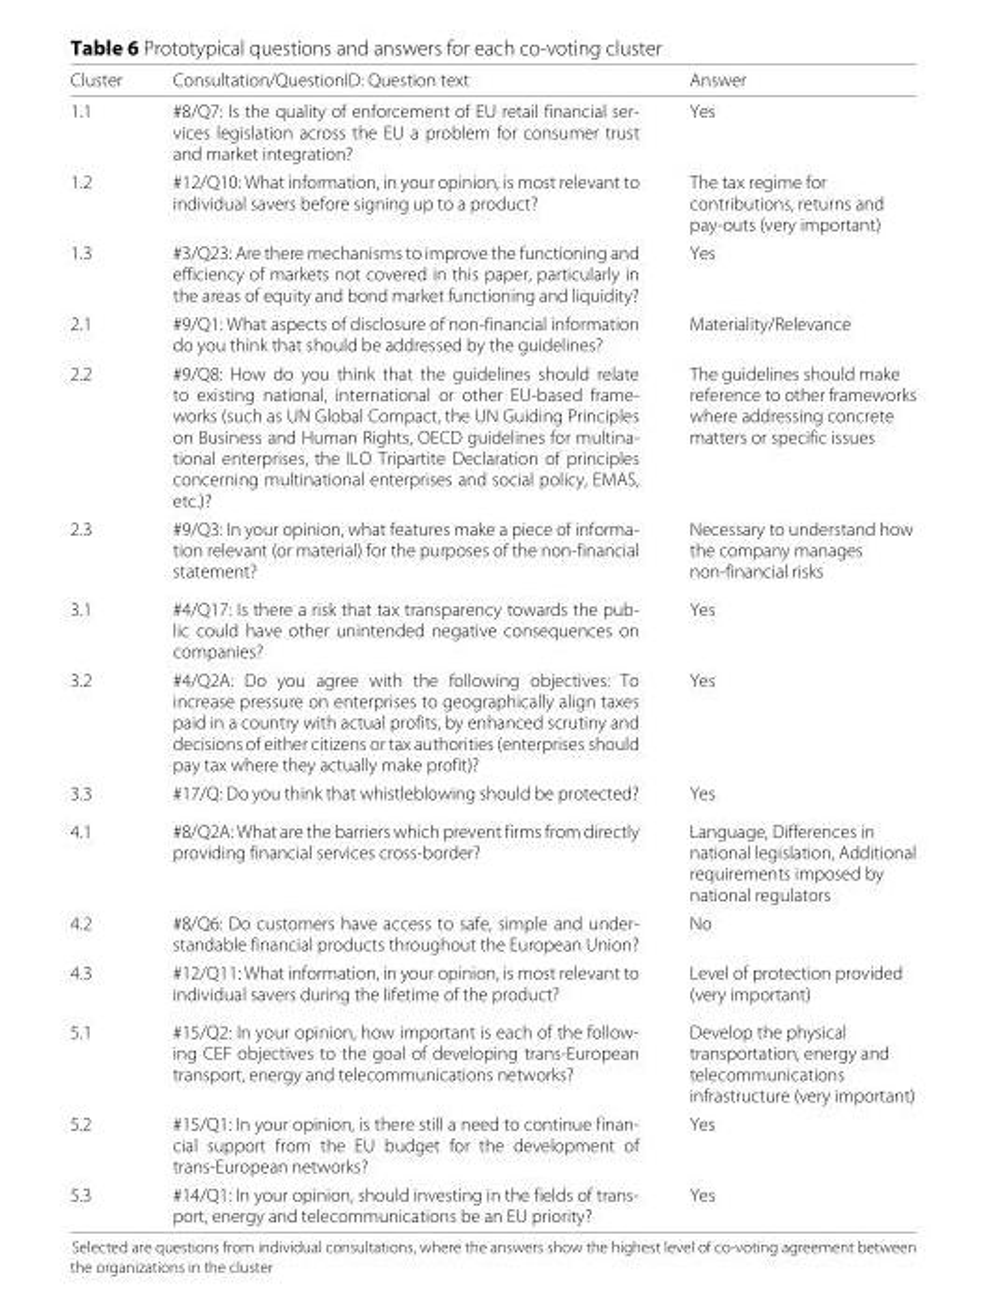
<table><thead><tr><td>Cluster</td><td>Consultation/QuestionID: Question text</td><td>Answer</td></tr></thead><tbody><tr><td>1.1</td><td>#8/Q7: Is the quality of enforcement of EU retail financial ser- vices legislation across the EU a problem for consumer trust and market integration?</td><td>Yes</td></tr><tr><td>1.2</td><td>#12/Q10: What information, in your opinion, is most relevant to individual savers before signing up to a product?</td><td>The tax regime for contributions, returns and pay-outs (very important)</td></tr><tr><td>1.3</td><td>#3/Q23: Are there mechanisms to improve the functioning and efficiency of markets not covered in this paper, particularly in the areas of equity and bond market functioning and liquidity?</td><td>Yes</td></tr><tr><td>2.1</td><td>#9/Q1: What aspects of disclosure of non-financial information do you think that should be addressed by the guidelines?</td><td>Materiality/Relevance</td></tr><tr><td>2.2</td><td>#9/Q8: How do you think that the guidelines should relate to existing national, international or other EU-based frame- works (such as UN Global Compact, the UN Guiding Principles on Business and Human Rights, OECD guidelines for multina- tional enterprises, the ILO Tripartite Declaration of principles concerning multinational enterprises and social policy, EMAS, etc.)?</td><td>The guidelines should make reference to other frameworks where addressing concrete matters or specific issues</td></tr><tr><td>2.3</td><td>#9/Q3: In your opinion, what features make a piece of informa- tion relevant (or material) for the purposes of the non-financial statement?</td><td>Necessary to understand how the company manages non-financial risks</td></tr><tr><td>3.1</td><td>#4/Q17: Is there a risk that tax transparency towards the pub- lic could have other unintended negative consequences on companies?</td><td>Yes</td></tr><tr><td>3.2</td><td>#4/Q2A: Do you agree with the following objectives: To increase pressure on enterprises to geographically align taxes paid in a country with actual profits, by enhanced scrutiny and decisions of either citizens or tax authorities (enterprises should pay tax where they actually make profit)?</td><td>Yes</td></tr><tr><td>3.3</td><td>#17/Q: Do you think that whistleblowing should be protected?</td><td>Yes</td></tr><tr><td>4.1</td><td>#8/Q2A: What are the barriers which prevent firms from directly providing financial services cross-border?</td><td>Language, Differences in national legislation, Additional requirements imposed by national regulators</td></tr><tr><td>4.2</td><td>#8/Q6: Do customers have access to safe, simple and under- standable financial products throughout the European Union?</td><td>No</td></tr><tr><td>4.3</td><td>#12/Q11: What information, in your opinion, is most relevant to individual savers during the lifetime of the product?</td><td>Level of protection provided (very important)</td></tr><tr><td>5.1</td><td>#15/Q2: In your opinion, how important is each of the follow- ing CEF objectives to the goal of developing trans-European transport, energy and telecommunications networks?</td><td>Develop the physical transportation, energy and telecommunications infrastructure (very important)</td></tr><tr><td>5.2</td><td>#15/Q1: In your opinion, is there still a need to continue finan- cial support from the EU budget for the development of trans-European networks?</td><td>Yes</td></tr><tr><td>5.3</td><td>#14/Q1: In your opinion, should investing in the fields of trans- port, energy and telecommunications be an EU priority?</td><td>Yes</td></tr></tbody></table>